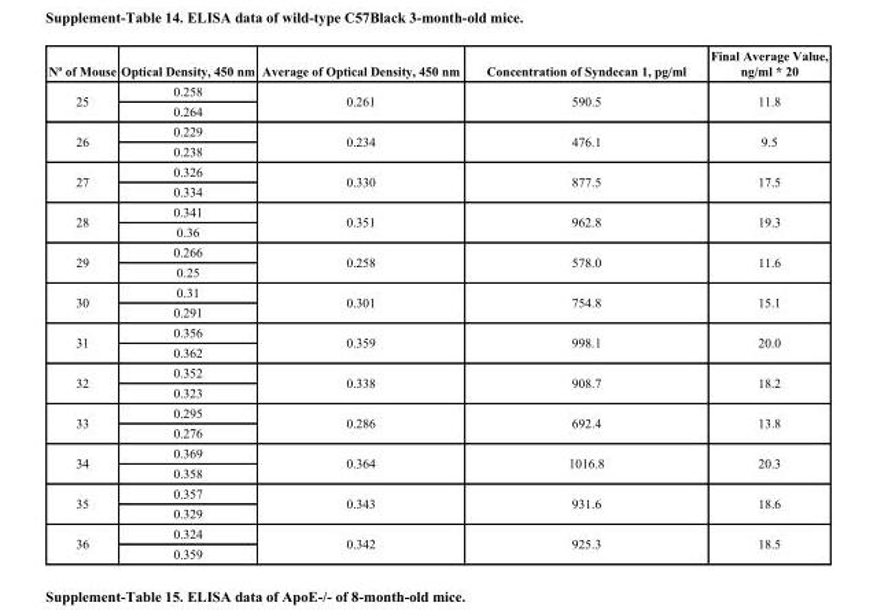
<table><thead><tr><td>Nº of Mouse</td><td>Optical Density, 450 nm</td><td>Average of Optical Density, 450 nm</td><td>Concentration of Syndecan 1, pg/ml</td><td>Final Average Value, ng/ml * 20</td></tr></thead><tbody><tr><td rowspan="2">25</td><td>0.258</td><td rowspan="2">0.261</td><td rowspan="2">590.5</td><td rowspan="2">11.8</td></tr><tr><td>0.264</td></tr><tr><td rowspan="2">26</td><td>0.229</td><td rowspan="2">0.234</td><td rowspan="2">476.1</td><td rowspan="2">9.5</td></tr><tr><td>0.238</td></tr><tr><td rowspan="2">27</td><td>0.326</td><td rowspan="2">0.330</td><td rowspan="2">877.5</td><td rowspan="2">17.5</td></tr><tr><td>0.334</td></tr><tr><td rowspan="2">28</td><td>0.341</td><td rowspan="2">0.351</td><td rowspan="2">962.8</td><td rowspan="2">19.3</td></tr><tr><td>0.36</td></tr><tr><td rowspan="2">29</td><td>0.266</td><td rowspan="2">0.258</td><td rowspan="2">578.0</td><td rowspan="2">11.6</td></tr><tr><td>0.25</td></tr><tr><td rowspan="2">30</td><td>0.31</td><td rowspan="2">0.301</td><td rowspan="2">754.8</td><td rowspan="2">15.1</td></tr><tr><td>0.291</td></tr><tr><td rowspan="2">31</td><td>0.356</td><td rowspan="2">0.359</td><td rowspan="2">998.1</td><td rowspan="2">20.0</td></tr><tr><td>0.362</td></tr><tr><td rowspan="2">32</td><td>0.352</td><td rowspan="2">0.338</td><td rowspan="2">908.7</td><td rowspan="2">18.2</td></tr><tr><td>0.323</td></tr><tr><td rowspan="2">33</td><td>0.295</td><td rowspan="2">0.286</td><td rowspan="2">692.4</td><td rowspan="2">13.8</td></tr><tr><td>0.276</td></tr><tr><td rowspan="2">34</td><td>0.369</td><td rowspan="2">0.364</td><td rowspan="2">1016.8</td><td rowspan="2">20.3</td></tr><tr><td>0.358</td></tr><tr><td rowspan="2">35</td><td>0.357</td><td rowspan="2">0.343</td><td rowspan="2">931.6</td><td rowspan="2">18.6</td></tr><tr><td>0.329</td></tr><tr><td rowspan="2">36</td><td>0.324</td><td rowspan="2">0.342</td><td rowspan="2">925.3</td><td rowspan="2">18.5</td></tr><tr><td>0.359</td></tr></tbody></table>